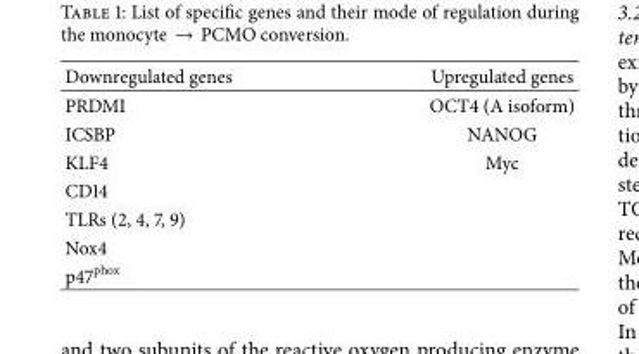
<table><thead><tr><td>Downregulated genes</td><td>Upregulated genes</td></tr></thead><tbody><tr><td>PRDMI</td><td>OCT4 (A isoform)</td></tr><tr><td>ICSBP</td><td>NANOG</td></tr><tr><td>KLF4</td><td>Myc</td></tr><tr><td colspan="2">CD14</td></tr><tr><td colspan="2">TLRs (2, 4, 7, 9)</td></tr><tr><td colspan="2">Nox4</td></tr><tr><td>p47<sup>phox</sup></td><td></td></tr></tbody></table>